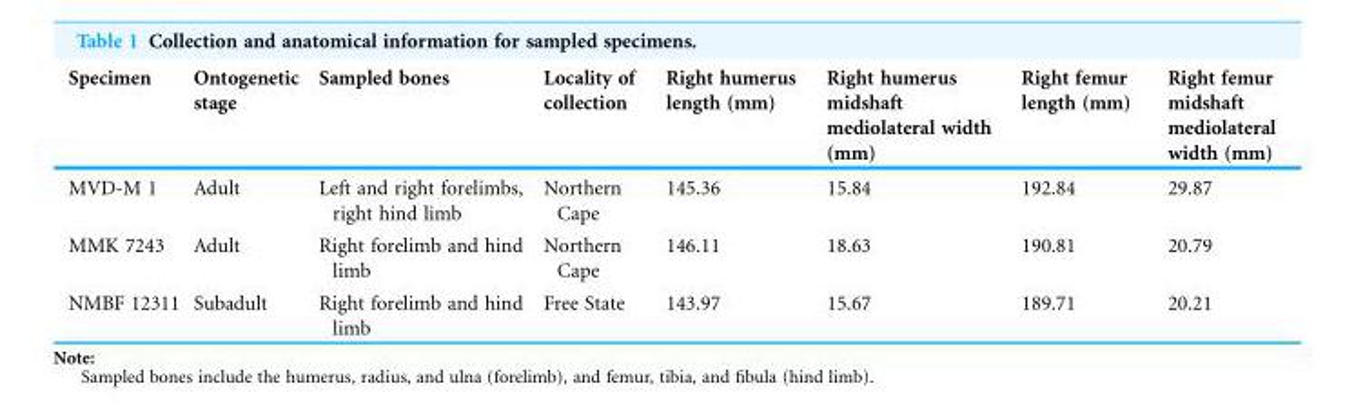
<table><thead><tr><td>Specimen</td><td>Ontogenetic stage</td><td>Sampled bones</td><td>Locality of collection</td><td>Right humerus length (mm)</td><td>Right humerus midshaft mediolateral width (mm)</td><td>Right femur length (mm)</td><td>Right femur midshaft mediolateral width (mm)</td></tr></thead><tbody><tr><td>MVD-M 1</td><td>Adult</td><td>Left and right forelimbs, right hind limb</td><td>Northern Cape</td><td>145.36</td><td>15.84</td><td>192.84</td><td>29.87</td></tr><tr><td>MMK 7243</td><td>Adult</td><td>Right forelimb and hind limb</td><td>Northern Cape</td><td>146.11</td><td>18.63</td><td>190.81</td><td>20.79</td></tr><tr><td>NMBF 12311</td><td>Subadult</td><td>Right forelimb and hind limb</td><td>Free State</td><td>143.97</td><td>15.67</td><td>189.71</td><td>20.21</td></tr></tbody></table>